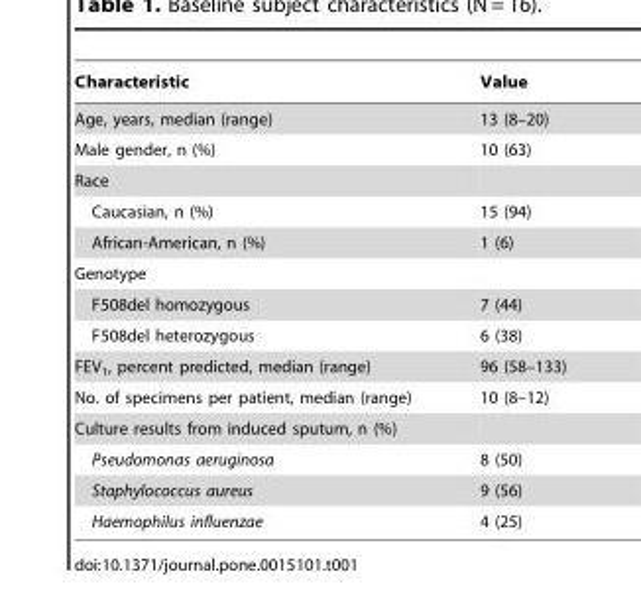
<table><thead><tr><td>Characteristic</td><td>Value</td></tr></thead><tbody><tr><td>Age, years, median (range)</td><td>13 (8–20)</td></tr><tr><td>Male gender, n (%)</td><td>10 (63)</td></tr><tr><td colspan="2">Race</td></tr><tr><td>Caucasian, n (%)</td><td>15 (94)</td></tr><tr><td>African-American, n (%)</td><td>1 (6)</td></tr><tr><td colspan="2">Genotype</td></tr><tr><td>F508del homozygous</td><td>7 (44)</td></tr><tr><td>F508del heterozygous</td><td>6 (38)</td></tr><tr><td>FEV<sub>1</sub>, percent predicted, median (range)</td><td>96 (58–133)</td></tr><tr><td>No. of specimens per patient, median (range)</td><td>10 (8–12)</td></tr><tr><td colspan="2">Culture results from induced sputum, n (%)</td></tr><tr><td>Pseudomonas aeruginosa</td><td>8 (50)</td></tr><tr><td>Staphylococcus aureus</td><td>9 (56)</td></tr><tr><td>Haemophilus influenzae</td><td>4 (25)</td></tr></tbody></table>